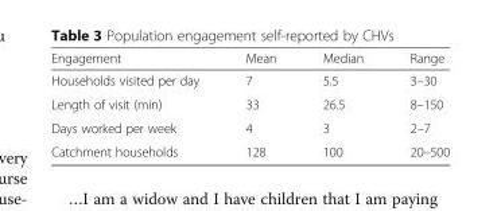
<table><thead><tr><td>Engagement</td><td>Mean</td><td>Median</td><td>Range</td></tr></thead><tbody><tr><td>Households visited per day</td><td>7</td><td>5.5</td><td>3–30</td></tr><tr><td>Length of visit (min)</td><td>33</td><td>26.5</td><td>8–150</td></tr><tr><td>Days worked per week</td><td>4</td><td>3</td><td>2–7</td></tr><tr><td>Catchment households</td><td>128</td><td>100</td><td>20–500</td></tr></tbody></table>